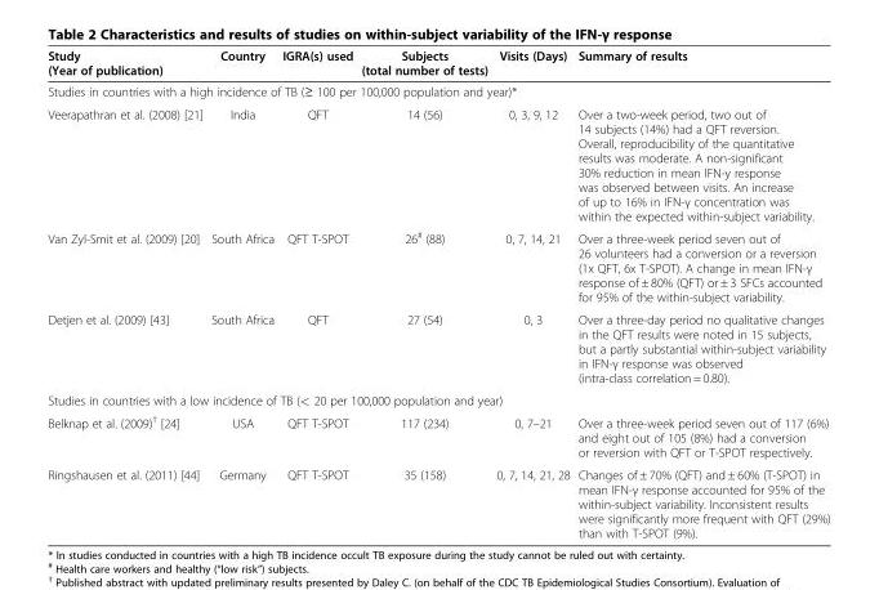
<table><thead><tr><td>Study (Year of publication)</td><td>Country</td><td>IGRA(s) used</td><td>Subjects (total number of tests)</td><td>Visits (Days)</td><td>Summary of results</td></tr></thead><tbody><tr><td colspan="6">Studies in countries with a high incidence of TB (≥ 100 per 100,000 population and year)*</td></tr><tr><td>Veerapathran et al. (2008) [21]</td><td>India</td><td>QFT</td><td>14 (56)</td><td>0, 3, 9, 12</td><td>Over a two-week period, two out of 14 subjects (14%) had a QFT reversion. Overall, reproducibility of the quantitative results was moderate. A non-significant 30% reduction in mean IFN-y response was observed between visits. An increase of up to 16% in IFN-γ concentration was within the expected within-subject variability.</td></tr><tr><td>Van Zyl-Smit et al. (2009) [20]</td><td>South Africa</td><td>QFT T-SPOT</td><td>26<sup>#</sup> (88)</td><td>0, 7, 14, 21</td><td>Over a three-week period seven out of 26 volunteers had a conversion or a reversion (1x QFT, 6x T-SPOT). A change in mean IFN-γ response of ± 80% (QFT) or ± 3 SFCs accounted for 95% of the within-subject variability.</td></tr><tr><td>Detjen et al. (2009) [43]</td><td>South Africa</td><td>QFT</td><td>27 (54)</td><td>0, 3</td><td>Over a three-day period no qualitative changes in the QFT results were noted in 15 subjects, but a partly substantial within-subject variability in IFN-γ response was observed (intra-class correlation = 0.80).</td></tr><tr><td colspan="6">Studies in countries with a low incidence of TB (&lt; 20 per 100,000 population and year)</td></tr><tr><td>Belknap et al. (2009)<sup>†</sup> [24]</td><td>USA</td><td>QFT T-SPOT</td><td>117 (234)</td><td>0, 7–21</td><td>Over a three-week period seven out of 117 (6%) and eight out of 105 (8%) had a conversion or reversion with QFT or T-SPOT respectively.</td></tr><tr><td>Ringshausen et al. (2011) [44]</td><td>Germany</td><td>QFT T-SPOT</td><td>35 (158)</td><td>0, 7, 14, 21, 28</td><td>Changes of ± 70% (QFT) and ± 60% (T-SPOT) in mean IFN-γ response accounted for 95% of the within-subject variability. Inconsistent results were significantly more frequent with QFT (29%) than with T-SPOT (9%).</td></tr></tbody></table>